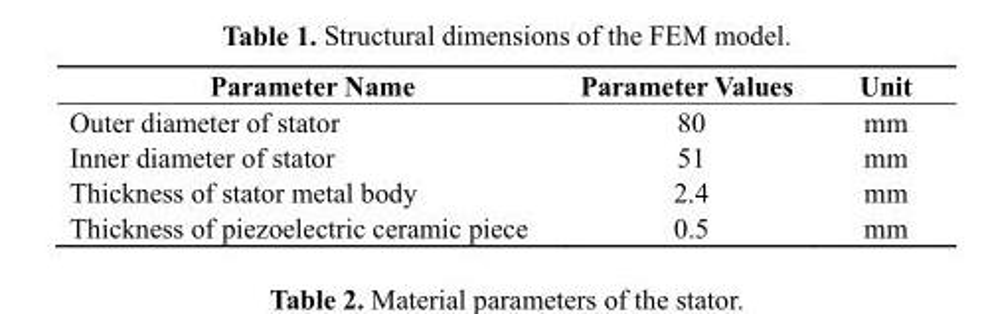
<table><thead><tr><td>Parameter Name</td><td>Parameter Values</td><td>Unit</td></tr></thead><tbody><tr><td>Outer diameter of stator</td><td>80</td><td>mm</td></tr><tr><td>Inner diameter of stator</td><td>51</td><td>mm</td></tr><tr><td>Thickness of stator metal body</td><td>2.4</td><td>mm</td></tr><tr><td>Thickness of piezoelectric ceramic piece</td><td>0.5</td><td>mm</td></tr></tbody></table>